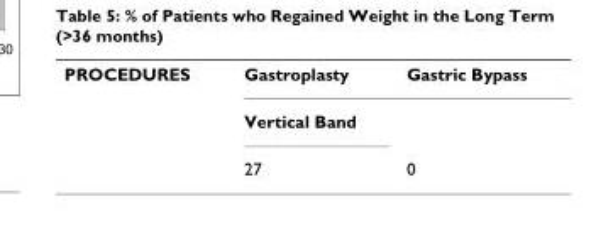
<table><tbody><tr><td rowspan="3">PROCEDURES</td><td>Gastroplasty</td><td>Gastric Bypass</td></tr><tr><td>Vertical Band</td><td></td></tr><tr><td>27</td><td>0</td></tr></tbody></table>